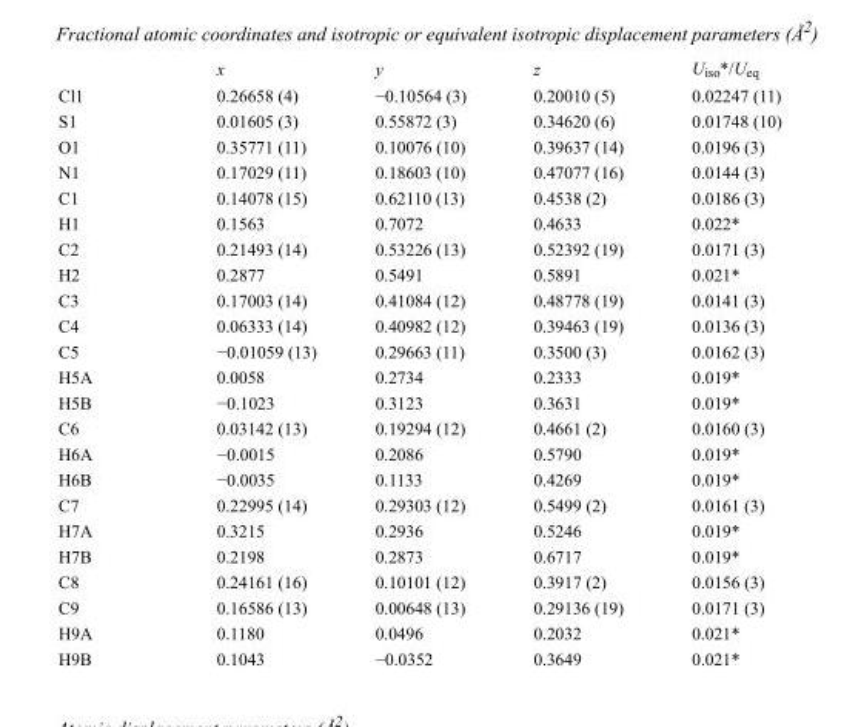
<table><thead><tr><td></td><td>x</td><td>y</td><td>z</td><td>U<sub>iso</sub>*/U<sub>eq</sub></td></tr></thead><tbody><tr><td>Cl1</td><td>0.26658 (4)</td><td>−0.10564 (3)</td><td>0.20010 (5)</td><td>0.02247 (11)</td></tr><tr><td>S1</td><td>0.01605 (3)</td><td>0.55872 (3)</td><td>0.34620 (6)</td><td>0.01748 (10)</td></tr><tr><td>O1</td><td>0.35771 (11)</td><td>0.10076 (10)</td><td>0.39637 (14)</td><td>0.0196 (3)</td></tr><tr><td>N1</td><td>0.17029 (11)</td><td>0.18603 (10)</td><td>0.47077 (16)</td><td>0.0144 (3)</td></tr><tr><td>C1</td><td>0.14078 (15)</td><td>0.62110 (13)</td><td>0.4538 (2)</td><td>0.0186 (3)</td></tr><tr><td>H1</td><td>0.1563</td><td>0.7072</td><td>0.4633</td><td>0.022*</td></tr><tr><td>C2</td><td>0.21493 (14)</td><td>0.53226 (13)</td><td>0.52392 (19)</td><td>0.0171 (3)</td></tr><tr><td>H2</td><td>0.2877</td><td>0.5491</td><td>0.5891</td><td>0.021*</td></tr><tr><td>C3</td><td>0.17003 (14)</td><td>0.41084 (12)</td><td>0.48778 (19)</td><td>0.0141 (3)</td></tr><tr><td>C4</td><td>0.06333 (14)</td><td>0.40982 (12)</td><td>0.39463 (19)</td><td>0.0136 (3)</td></tr><tr><td>C5</td><td>−0.01059 (13)</td><td>0.29663 (11)</td><td>0.3500 (3)</td><td>0.0162 (3)</td></tr><tr><td>H5A</td><td>0.0058</td><td>0.2734</td><td>0.2333</td><td>0.019*</td></tr><tr><td>H5B</td><td>−0.1023</td><td>0.3123</td><td>0.3631</td><td>0.019*</td></tr><tr><td>C6</td><td>0.03142 (13)</td><td>0.19294 (12)</td><td>0.4661 (2)</td><td>0.0160 (3)</td></tr><tr><td>H6A</td><td>−0.0015</td><td>0.2086</td><td>0.5790</td><td>0.019*</td></tr><tr><td>H6B</td><td>−0.0035</td><td>0.1133</td><td>0.4269</td><td>0.019*</td></tr><tr><td>C7</td><td>0.22995 (14)</td><td>0.29303 (12)</td><td>0.5499 (2)</td><td>0.0161 (3)</td></tr><tr><td>H7A</td><td>0.3215</td><td>0.2936</td><td>0.5246</td><td>0.019*</td></tr><tr><td>H7B</td><td>0.2198</td><td>0.2873</td><td>0.6717</td><td>0.019*</td></tr><tr><td>C8</td><td>0.24161 (16)</td><td>0.10101 (12)</td><td>0.3917 (2)</td><td>0.0156 (3)</td></tr><tr><td>C9</td><td>0.16586 (13)</td><td>0.00648 (13)</td><td>0.29136 (19)</td><td>0.0171 (3)</td></tr><tr><td>H9A</td><td>0.1180</td><td>0.0496</td><td>0.2032</td><td>0.021*</td></tr><tr><td>H9B</td><td>0.1043</td><td>−0.0352</td><td>0.3649</td><td>0.021*</td></tr></tbody></table>